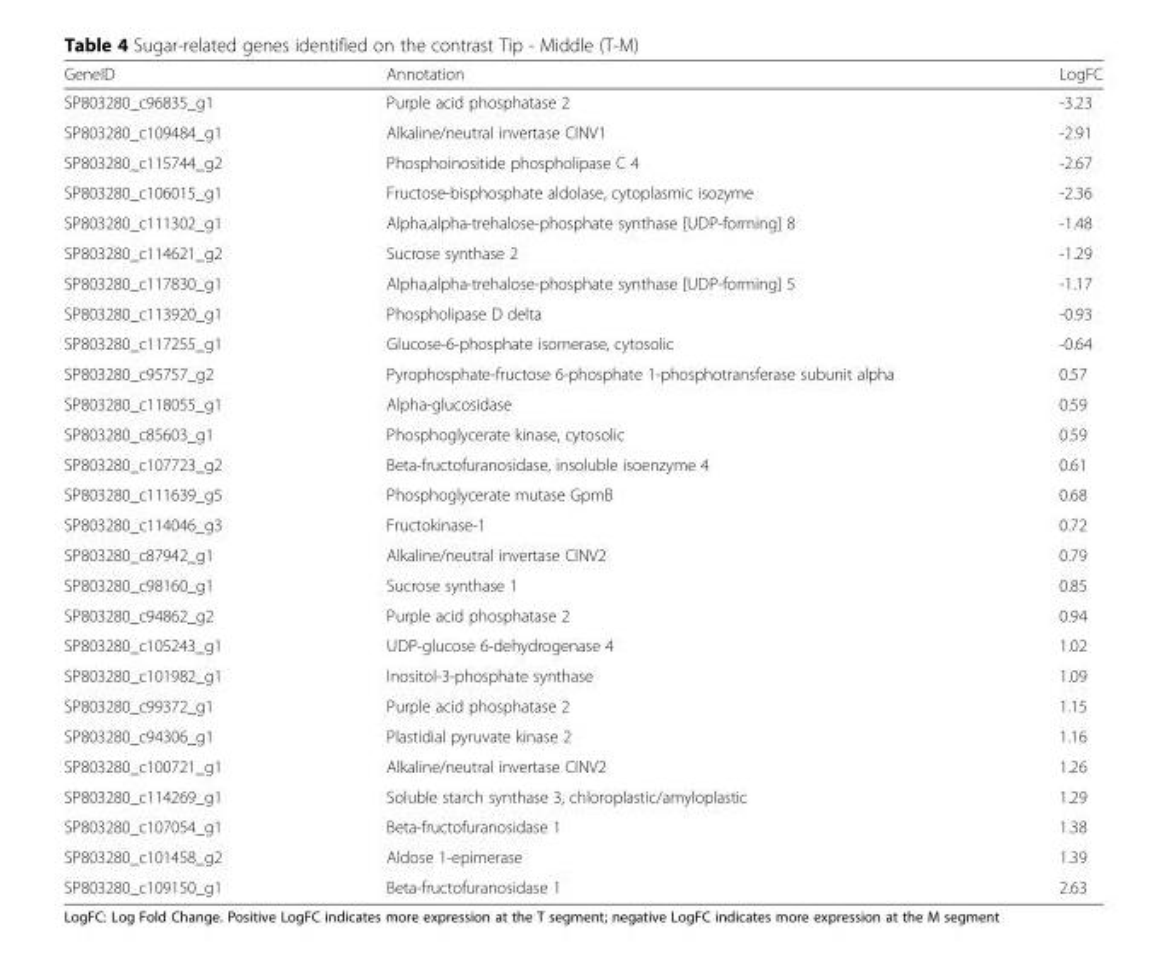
<table><thead><tr><td>GeneID</td><td>Annotation</td><td>LogFC</td></tr></thead><tbody><tr><td>SP803280_c96835_g1</td><td>Purple acid phosphatase 2</td><td>-3.23</td></tr><tr><td>SP803280_c109484_g1</td><td>Alkaline/neutral invertase CINV1</td><td>-2.91</td></tr><tr><td>SP803280_c115744_g2</td><td>Phosphoinositide phospholipase C 4</td><td>-2.67</td></tr><tr><td>SP803280_c106015_g1</td><td>Fructose-bisphosphate aldolase, cytoplasmic isozyme</td><td>-2.36</td></tr><tr><td>SP803280_c111302_g1</td><td>Alpha,alpha-trehalose-phosphate synthase [UDP-forming] 8</td><td>-1.48</td></tr><tr><td>SP803280_c114621_g2</td><td>Sucrose synthase 2</td><td>-1.29</td></tr><tr><td>SP803280_c117830_g1</td><td>Alpha,alpha-trehalose-phosphate synthase [UDP-forming] 5</td><td>-1.17</td></tr><tr><td>SP803280_c113920_g1</td><td>Phospholipase D delta</td><td>-0.93</td></tr><tr><td>SP803280_c117255_g1</td><td>Glucose-6-phosphate isomerase, cytosolic</td><td>-0.64</td></tr><tr><td>SP803280_c95757_g2</td><td>Pyrophosphate-fructose 6-phosphate 1-phosphotransferase subunit alpha</td><td>0.57</td></tr><tr><td>SP803280_c118055_g1</td><td>Alpha-glucosidase</td><td>0.59</td></tr><tr><td>SP803280_c85603_g1</td><td>Phosphoglycerate kinase, cytosolic</td><td>0.59</td></tr><tr><td>SP803280_c107723_g2</td><td>Beta-fructofuranosidase, insoluble isoenzyme 4</td><td>0.61</td></tr><tr><td>SP803280_c111639_g5</td><td>Phosphoglycerate mutase GpmB</td><td>0.68</td></tr><tr><td>SP803280_c114046_g3</td><td>Fructokinase-1</td><td>0.72</td></tr><tr><td>SP803280_c87942_g1</td><td>Alkaline/neutral invertase CINV2</td><td>0.79</td></tr><tr><td>SP803280_c98160_g1</td><td>Sucrose synthase 1</td><td>0.85</td></tr><tr><td>SP803280_c94862_g2</td><td>Purple acid phosphatase 2</td><td>0.94</td></tr><tr><td>SP803280_c105243_g1</td><td>UDP-glucose 6-dehydrogenase 4</td><td>1.02</td></tr><tr><td>SP803280_c101982_g1</td><td>Inositol-3-phosphate synthase</td><td>1.09</td></tr><tr><td>SP803280_c99372_g1</td><td>Purple acid phosphatase 2</td><td>1.15</td></tr><tr><td>SP803280_c94306_g1</td><td>Plastidial pyruvate kinase 2</td><td>1.16</td></tr><tr><td>SP803280_c100721_g1</td><td>Alkaline/neutral invertase CINV2</td><td>1.26</td></tr><tr><td>SP803280_c114269_g1</td><td>Soluble starch synthase 3, chloroplastic/amyloplastic</td><td>1.29</td></tr><tr><td>SP803280_c107054_g1</td><td>Beta-fructofuranosidase 1</td><td>1.38</td></tr><tr><td>SP803280_c101458_g2</td><td>Aldose 1-epimerase</td><td>1.39</td></tr><tr><td>SP803280_c109150_g1</td><td>Beta-fructofuranosidase 1</td><td>2.63</td></tr></tbody></table>